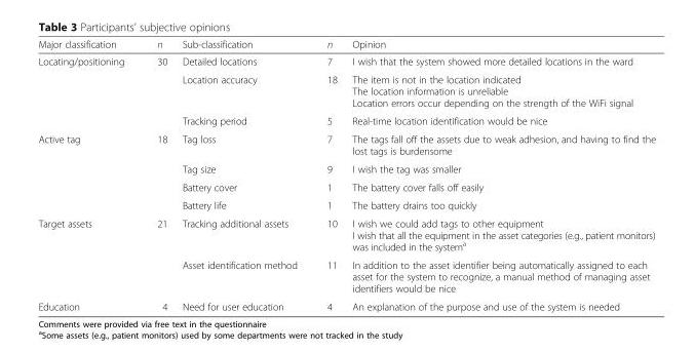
<table><thead><tr><td>Major classification</td><td>n</td><td>Sub-classification</td><td>n</td><td>Opinion</td></tr></thead><tbody><tr><td rowspan="3">Locating/positioning</td><td rowspan="3">30</td><td>Detailed locations</td><td>7</td><td>I wish that the system showed more detailed locations in the ward</td></tr><tr><td>Location accuracy</td><td>18</td><td>The item is not in the location indicated The location information is unreliable Location errors occur depending on the strength of the WiFi signal</td></tr><tr><td>Tracking period</td><td>5</td><td>Real-time location identification would be nice</td></tr><tr><td rowspan="4">Active tag</td><td rowspan="4">18</td><td>Tag loss</td><td>7</td><td>The tags fall off the assets due to weak adhesion, and having to find the lost tags is burdensome</td></tr><tr><td>Tag size</td><td>9</td><td>I wish the tag was smaller</td></tr><tr><td>Battery cover</td><td>1</td><td>The battery cover falls off easily</td></tr><tr><td>Battery life</td><td>1</td><td>The battery drains too quickly</td></tr><tr><td rowspan="2">Target assets</td><td rowspan="2">21</td><td>Tracking additional assets</td><td>10</td><td>I wish we could add tags to other equipment I wish that all the equipment in the asset categories (e.g., patient monitors) was included in the system<sup>a</sup></td></tr><tr><td>Asset identification method</td><td>11</td><td>In addition to the asset identifier being automatically assigned to each asset for the system to recognize, a manual method of managing asset identifiers would be nice</td></tr><tr><td>Education</td><td>4</td><td>Need for user education</td><td>4</td><td>An explanation of the purpose and use of the system is needed</td></tr></tbody></table>